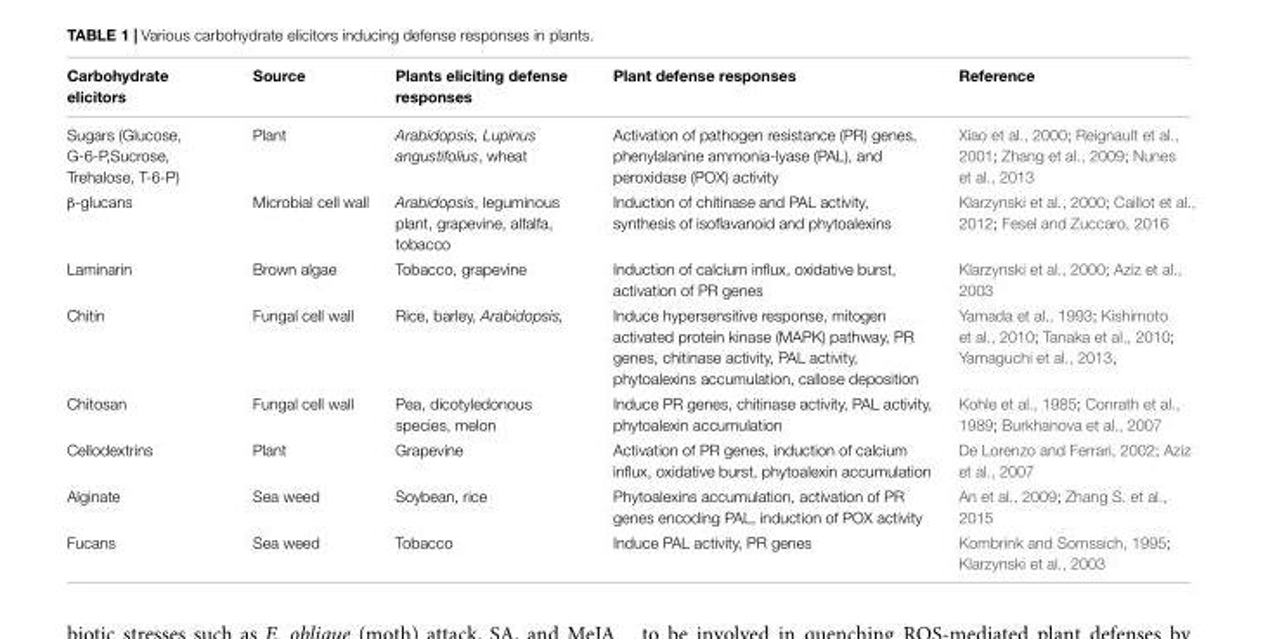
<table><thead><tr><td>Carbohydrate elicitors</td><td>Source</td><td>Plants eliciting defense responses</td><td>Plant defense responses</td><td>Reference</td></tr></thead><tbody><tr><td>Sugars (Glucose, G-6-P,Sucrose, Trehalose, T-6-P)</td><td>Plant</td><td>Arabidopsis, Lupinus angustifolius, wheat</td><td>Activation of pathogen resistance (PR) genes, phenylalanine ammonia-lyase (PAL), and peroxidase (POX) activity</td><td>Xiao et al., 2000; Reignault et al., 2001; Zhang et al., 2009; Nunes et al., 2013</td></tr><tr><td>β-glucans</td><td>Microbial cell wall</td><td>Arabidopsis, leguminous plant, grapevine, alfalfa, tobacco</td><td>Induction of chitinase and PAL activity, synthesis of isoflavanoid and phytoalexins</td><td>Klarzynski et al., 2000; Caillot et al., 2012; Fesel and Zuccaro, 2016</td></tr><tr><td>Laminarin</td><td>Brown algae</td><td>Tobacco, grapevine</td><td>Induction of calcium influx, oxidative burst, activation of PR genes</td><td>Klarzynski et al., 2000; Aziz et al., 2003</td></tr><tr><td>Chitin</td><td>Fungal cell wall</td><td>Rice, barley, Arabidopsis,</td><td>Induce hypersensitive response, mitogen activated protein kinase (MAPK) pathway, PR genes, chitinase activity, PAL activity, phytoalexins accumulation, callose deposition</td><td>Yamada et al., 1993; Kishimoto et al., 2010; Tanaka et al., 2010; Yamaguchi et al., 2013,</td></tr><tr><td>Chitosan</td><td>Fungal cell wall</td><td>Pea, dicotyledonous species, melon</td><td>Induce PR genes, chitinase activity, PAL activity, phytoalexin accumulation</td><td>Kohle et al., 1985; Conrath et al., 1989; Burkhanova et al., 2007</td></tr><tr><td>Cellodextrins</td><td>Plant</td><td>Grapevine</td><td>Activation of PR genes, induction of calcium influx, oxidative burst, phytoalexin accumulation</td><td>De Lorenzo and Ferrari, 2002; Aziz et al., 2007</td></tr><tr><td>Alginate</td><td>Sea weed</td><td>Soybean, rice</td><td>Phytoalexins accumulation, activation of PR genes encoding PAL, induction of POX activity</td><td>An et al., 2009; Zhang S. et al., 2015</td></tr><tr><td>Fucans</td><td>Sea weed</td><td>Tobacco</td><td>Induce PAL activity, PR genes</td><td>Kombrink and Somssich, 1995; Klarzynski et al., 2003</td></tr></tbody></table>